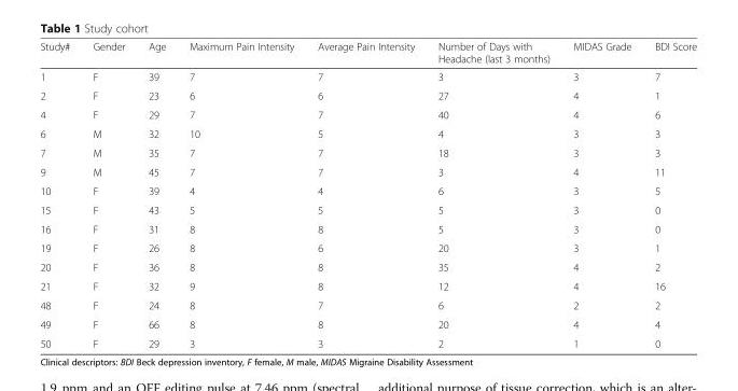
<table><thead><tr><td>Study#</td><td>Gender</td><td>Age</td><td>Maximum Pain Intensity</td><td>Average Pain Intensity</td><td>Number of Days with Headache (last 3 months)</td><td>MIDAS Grade</td><td>BDI Score</td></tr></thead><tbody><tr><td>1</td><td>F</td><td>39</td><td>7</td><td>7</td><td>3</td><td>3</td><td>7</td></tr><tr><td>2</td><td>F</td><td>23</td><td>6</td><td>6</td><td>27</td><td>4</td><td>1</td></tr><tr><td>4</td><td>F</td><td>29</td><td>7</td><td>7</td><td>40</td><td>4</td><td>6</td></tr><tr><td>6</td><td>M</td><td>32</td><td>10</td><td>5</td><td>4</td><td>3</td><td>3</td></tr><tr><td>7</td><td>M</td><td>35</td><td>7</td><td>7</td><td>18</td><td>3</td><td>3</td></tr><tr><td>9</td><td>M</td><td>45</td><td>7</td><td>7</td><td>3</td><td>4</td><td>11</td></tr><tr><td>10</td><td>F</td><td>39</td><td>4</td><td>4</td><td>6</td><td>3</td><td>5</td></tr><tr><td>15</td><td>F</td><td>43</td><td>5</td><td>5</td><td>5</td><td>3</td><td>0</td></tr><tr><td>16</td><td>F</td><td>31</td><td>8</td><td>8</td><td>5</td><td>3</td><td>0</td></tr><tr><td>19</td><td>F</td><td>26</td><td>8</td><td>6</td><td>20</td><td>3</td><td>1</td></tr><tr><td>20</td><td>F</td><td>36</td><td>8</td><td>8</td><td>35</td><td>4</td><td>2</td></tr><tr><td>21</td><td>F</td><td>32</td><td>9</td><td>8</td><td>12</td><td>4</td><td>16</td></tr><tr><td>48</td><td>F</td><td>24</td><td>8</td><td>7</td><td>6</td><td>2</td><td>2</td></tr><tr><td>49</td><td>F</td><td>66</td><td>8</td><td>8</td><td>20</td><td>4</td><td>4</td></tr><tr><td>50</td><td>F</td><td>29</td><td>3</td><td>3</td><td>2</td><td>1</td><td>0</td></tr></tbody></table>